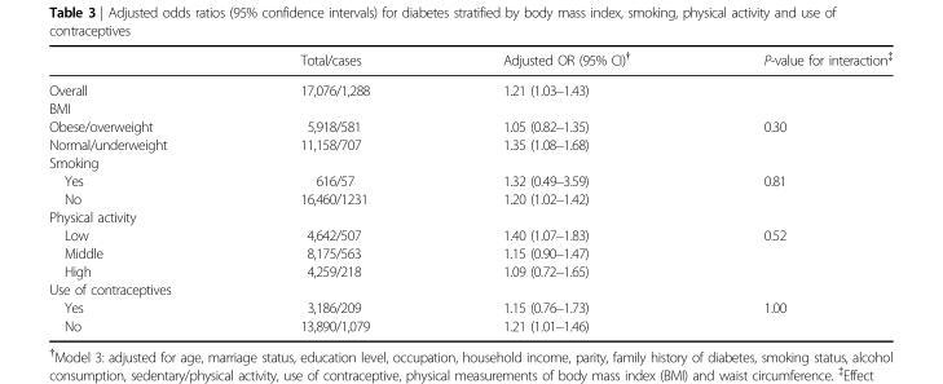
<table><thead><tr><td></td><td>Total/cases</td><td>Adjusted OR (95% CI)†</td><td>P-value for interaction‡</td></tr></thead><tbody><tr><td>Overall</td><td>17,076/1,288</td><td>1.21 (1.03–1.43)</td><td></td></tr><tr><td colspan="4">BMI</td></tr><tr><td>Obese/overweight</td><td>5,918/581</td><td>1.05 (0.82–1.35)</td><td rowspan="2">0.30</td></tr><tr><td>Normal/underweight</td><td>11,158/707</td><td>1.35 (1.08–1.68)</td></tr><tr><td colspan="4">Smoking</td></tr><tr><td>Yes</td><td>616/57</td><td>1.32 (0.49–3.59)</td><td rowspan="2">0.81</td></tr><tr><td>No</td><td>16,460/1231</td><td>1.20 (1.02–1.42)</td></tr><tr><td colspan="4">Physical activity</td></tr><tr><td>Low</td><td>4,642/507</td><td>1.40 (1.07–1.83)</td><td rowspan="3">0.52</td></tr><tr><td>Middle</td><td>8,175/563</td><td>1.15 (0.90–1.47)</td></tr><tr><td>High</td><td>4,259/218</td><td>1.09 (0.72–1.65)</td></tr><tr><td colspan="4">Use of contraceptives</td></tr><tr><td>Yes</td><td>3,186/209</td><td>1.15 (0.76–1.73)</td><td rowspan="2">1.00</td></tr><tr><td>No</td><td>13,890/1,079</td><td>1.21 (1.01–1.46)</td></tr></tbody></table>